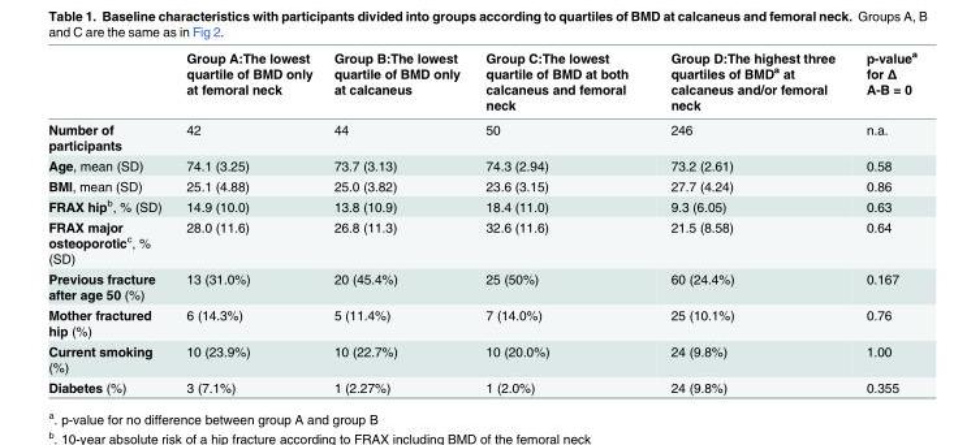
<table><thead><tr><td></td><td>Group A:The lowest quartile of BMD only at femoral neck</td><td>Group B:The lowest quartile of BMD only at calcaneus</td><td>Group C:The lowest quartile of BMD at both calcaneus and femoral neck</td><td>Group D:The highest three quartiles of BMD<sup>a</sup> at calcaneus and/or femoral neck</td><td>p-value<sup>a</sup> for Δ A-B = 0</td></tr></thead><tbody><tr><td>Number of participants</td><td>42</td><td>44</td><td>50</td><td>246</td><td>n.a.</td></tr><tr><td>Age, mean (SD)</td><td>74.1 (3.25)</td><td>73.7 (3.13)</td><td>74.3 (2.94)</td><td>73.2 (2.61)</td><td>0.58</td></tr><tr><td>BMI, mean (SD)</td><td>25.1 (4.88)</td><td>25.0 (3.82)</td><td>23.6 (3.15)</td><td>27.7 (4.24)</td><td>0.86</td></tr><tr><td>FRAX hip<sup>b</sup>, % (SD)</td><td>14.9 (10.0)</td><td>13.8 (10.9)</td><td>18.4 (11.0)</td><td>9.3 (6.05)</td><td>0.63</td></tr><tr><td>FRAX major osteoporotic<sup>c</sup>, % (SD)</td><td>28.0 (11.6)</td><td>26.8 (11.3)</td><td>32.6 (11.6)</td><td>21.5 (8.58)</td><td>0.64</td></tr><tr><td>Previous fracture after age 50 (%)</td><td>13 (31.0%)</td><td>20 (45.4%)</td><td>25 (50%)</td><td>60 (24.4%)</td><td>0.167</td></tr><tr><td>Mother fractured hip (%)</td><td>6 (14.3%)</td><td>5 (11.4%)</td><td>7 (14.0%)</td><td>25 (10.1%)</td><td>0.76</td></tr><tr><td>Current smoking (%)</td><td>10 (23.9%)</td><td>10 (22.7%)</td><td>10 (20.0%)</td><td>24 (9.8%)</td><td>1.00</td></tr><tr><td>Diabetes (%)</td><td>3 (7.1%)</td><td>1 (2.27%)</td><td>1 (2.0%)</td><td>24 (9.8%)</td><td>0.355</td></tr></tbody></table>